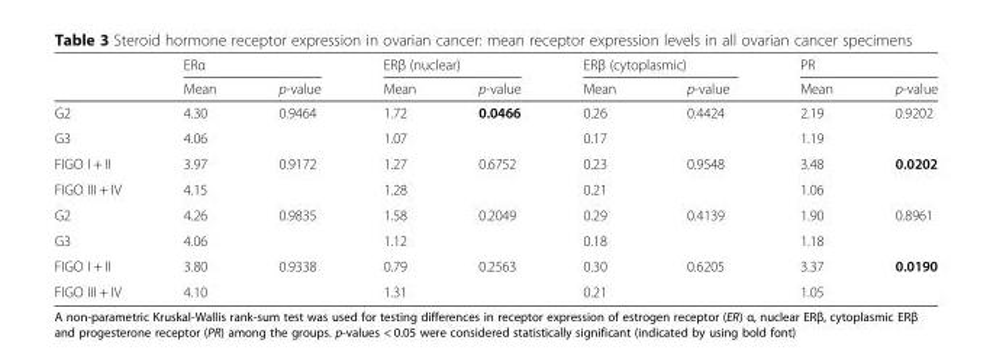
<table><thead><tr><td rowspan="2"></td><td colspan="2">ERα</td><td colspan="2">ERβ (nuclear)</td><td colspan="2">ERβ (cytoplasmic)</td><td colspan="2">PR</td></tr><tr><td>Mean</td><td>p-value</td><td>Mean</td><td>p-value</td><td>Mean</td><td>p-value</td><td>Mean</td><td>p-value</td></tr></thead><tbody><tr><td>G2</td><td>4.30</td><td rowspan="2">0.9464</td><td>1.72</td><td rowspan="2">0.0466</td><td>0.26</td><td rowspan="2">0.4424</td><td>2.19</td><td rowspan="2">0.9202</td></tr><tr><td>G3</td><td>4.06</td><td>1.07</td><td>0.17</td><td>1.19</td></tr><tr><td>FIGO I + II</td><td>3.97</td><td rowspan="2">0.9172</td><td>1.27</td><td rowspan="2">0.6752</td><td>0.23</td><td rowspan="2">0.9548</td><td>3.48</td><td rowspan="2">0.0202</td></tr><tr><td>FIGO III + IV</td><td>4.15</td><td>1.28</td><td>0.21</td><td>1.06</td></tr><tr><td>G2</td><td>4.26</td><td rowspan="2">0.9835</td><td>1.58</td><td rowspan="2">0.2049</td><td>0.29</td><td rowspan="2">0.4139</td><td>1.90</td><td rowspan="2">0.8961</td></tr><tr><td>G3</td><td>4.06</td><td>1.12</td><td>0.18</td><td>1.18</td></tr><tr><td>FIGO I + II</td><td>3.80</td><td rowspan="2">0.9338</td><td>0.79</td><td rowspan="2">0.2563</td><td>0.30</td><td rowspan="2">0.6205</td><td>3.37</td><td rowspan="2">0.0190</td></tr><tr><td>FIGO III + IV</td><td>4.10</td><td>1.31</td><td>0.21</td><td>1.05</td></tr></tbody></table>